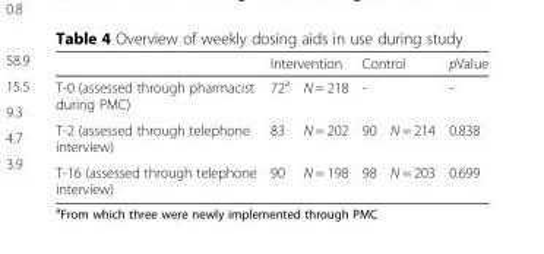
<table><thead><tr><td rowspan="2">T-0 (assessed through pharmacist during PMC)</td><td colspan="2">Intervention</td><td colspan="2">Control</td><td rowspan="2">pValue -</td></tr><tr><td>72<sup>a</sup></td><td>N = 218</td><td>-</td><td></td></tr></thead><tbody><tr><td>T-2 (assessed through telephone interview)</td><td>83</td><td>N = 202</td><td>90</td><td>N = 214</td><td>0.838</td></tr><tr><td>T-16 (assessed through telephone interview)</td><td>90</td><td>N = 198</td><td>98</td><td>N = 203</td><td>0.699</td></tr></tbody></table>